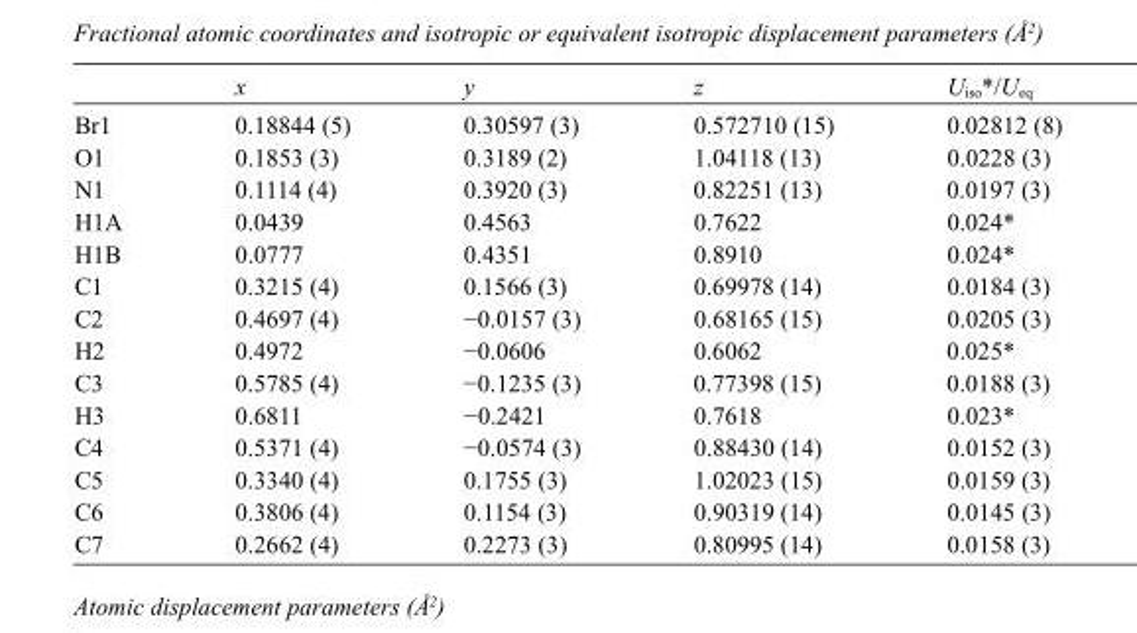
<table><thead><tr><td></td><td>x</td><td>y</td><td>z</td><td>U<sub>iso</sub>*/U<sub>eq</sub></td></tr></thead><tbody><tr><td>Br1</td><td>0.18844 (5)</td><td>0.30597 (3)</td><td>0.572710 (15)</td><td>0.02812 (8)</td></tr><tr><td>O1</td><td>0.1853 (3)</td><td>0.3189 (2)</td><td>1.04118 (13)</td><td>0.0228 (3)</td></tr><tr><td>N1</td><td>0.1114 (4)</td><td>0.3920 (3)</td><td>0.82251 (13)</td><td>0.0197 (3)</td></tr><tr><td>H1A</td><td>0.0439</td><td>0.4563</td><td>0.7622</td><td>0.024*</td></tr><tr><td>H1B</td><td>0.0777</td><td>0.4351</td><td>0.8910</td><td>0.024*</td></tr><tr><td>C1</td><td>0.3215 (4)</td><td>0.1566 (3)</td><td>0.69978 (14)</td><td>0.0184 (3)</td></tr><tr><td>C2</td><td>0.4697 (4)</td><td>−0.0157 (3)</td><td>0.68165 (15)</td><td>0.0205 (3)</td></tr><tr><td>H2</td><td>0.4972</td><td>−0.0606</td><td>0.6062</td><td>0.025*</td></tr><tr><td>C3</td><td>0.5785 (4)</td><td>−0.1235 (3)</td><td>0.77398 (15)</td><td>0.0188 (3)</td></tr><tr><td>H3</td><td>0.6811</td><td>−0.2421</td><td>0.7618</td><td>0.023*</td></tr><tr><td>C4</td><td>0.5371 (4)</td><td>−0.0574 (3)</td><td>0.88430 (14)</td><td>0.0152 (3)</td></tr><tr><td>C5</td><td>0.3340 (4)</td><td>0.1755 (3)</td><td>1.02023 (15)</td><td>0.0159 (3)</td></tr><tr><td>C6</td><td>0.3806 (4)</td><td>0.1154 (3)</td><td>0.90319 (14)</td><td>0.0145 (3)</td></tr><tr><td>C7</td><td>0.2662 (4)</td><td>0.2273 (3)</td><td>0.80995 (14)</td><td>0.0158 (3)</td></tr></tbody></table>